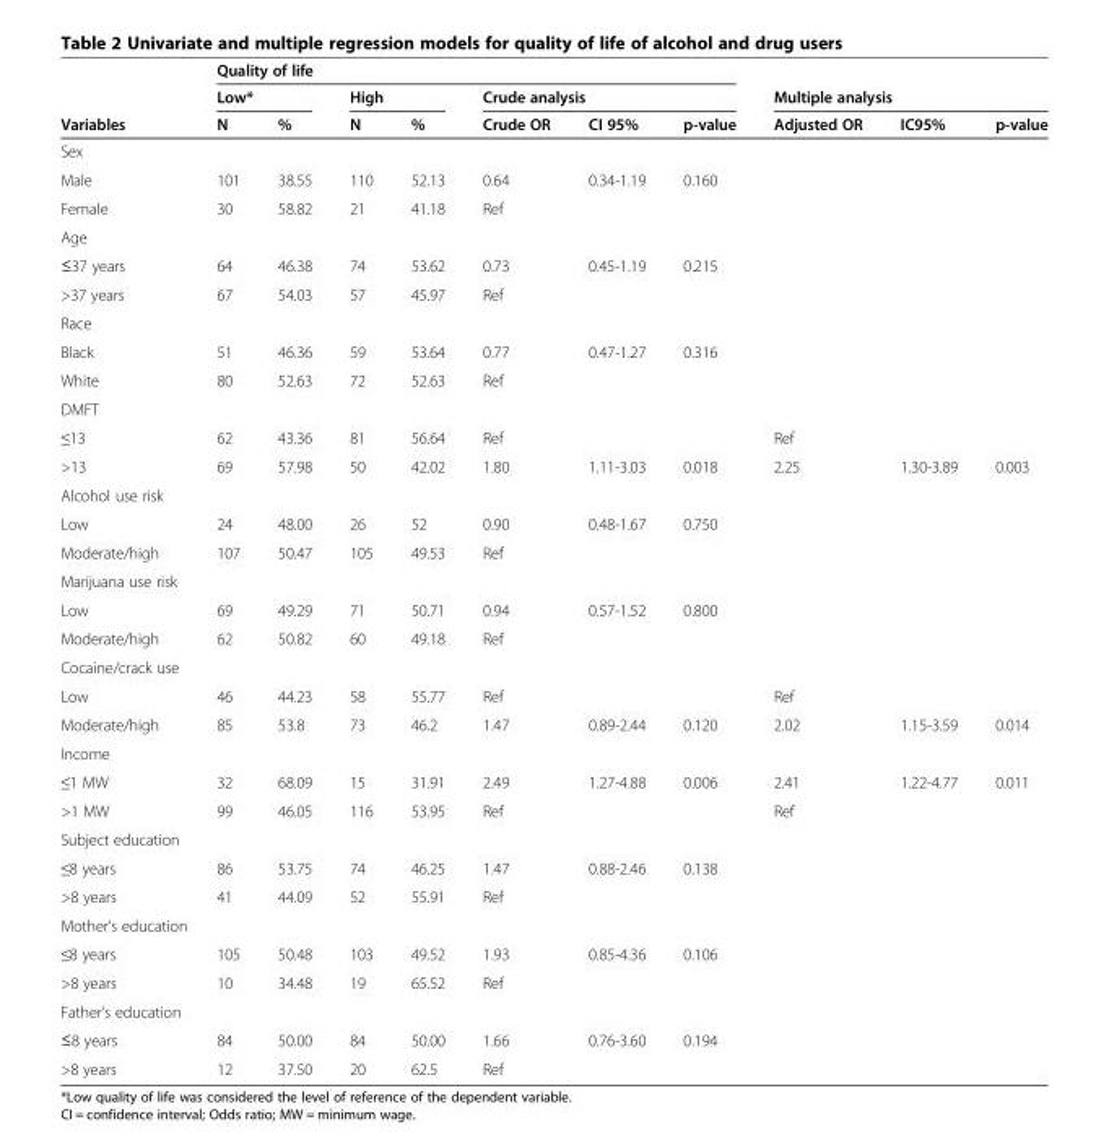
<table><thead><tr><td rowspan="3">Variables</td><td colspan="7">Quality of life</td><td></td><td></td><td></td></tr><tr><td colspan="2">Low*</td><td colspan="2">High</td><td colspan="3">Crude analysis</td><td colspan="3">Multiple analysis</td></tr><tr><td>N</td><td>%</td><td>N</td><td>%</td><td>Crude OR</td><td>CI 95%</td><td>p-value</td><td>Adjusted OR</td><td>IC95%</td><td>p-value</td></tr></thead><tbody><tr><td colspan="11">Sex</td></tr><tr><td>Male</td><td>101</td><td>38.55</td><td>110</td><td>52.13</td><td>0.64</td><td>0.34-1.19</td><td>0.160</td><td></td><td></td><td></td></tr><tr><td>Female</td><td>30</td><td>58.82</td><td>21</td><td>41.18</td><td>Ref</td><td></td><td></td><td></td><td></td><td></td></tr><tr><td colspan="11">Age</td></tr><tr><td>≤37 years</td><td>64</td><td>46.38</td><td>74</td><td>53.62</td><td>0.73</td><td>0.45-1.19</td><td>0.215</td><td></td><td></td><td></td></tr><tr><td>&gt;37 years</td><td>67</td><td>54.03</td><td>57</td><td>45.97</td><td>Ref</td><td></td><td></td><td></td><td></td><td></td></tr><tr><td colspan="11">Race</td></tr><tr><td>Black</td><td>51</td><td>46.36</td><td>59</td><td>53.64</td><td>0.77</td><td>0.47-1.27</td><td>0.316</td><td></td><td></td><td></td></tr><tr><td>White</td><td>80</td><td>52.63</td><td>72</td><td>52.63</td><td>Ref</td><td></td><td></td><td></td><td></td><td></td></tr><tr><td colspan="11">DMFT</td></tr><tr><td>≤13</td><td>62</td><td>43.36</td><td>81</td><td>56.64</td><td>Ref</td><td></td><td></td><td>Ref</td><td></td><td></td></tr><tr><td>&gt;13</td><td>69</td><td>57.98</td><td>50</td><td>42.02</td><td>1.80</td><td>1.11-3.03</td><td>0.018</td><td>2.25</td><td>1.30-3.89</td><td>0.003</td></tr><tr><td colspan="11">Alcohol use risk</td></tr><tr><td>Low</td><td>24</td><td>48.00</td><td>26</td><td>52</td><td>0.90</td><td>0.48-1.67</td><td>0.750</td><td></td><td></td><td></td></tr><tr><td>Moderate/high</td><td>107</td><td>50.47</td><td>105</td><td>49.53</td><td>Ref</td><td></td><td></td><td></td><td></td><td></td></tr><tr><td colspan="11">Marijuana use risk</td></tr><tr><td>Low</td><td>69</td><td>49.29</td><td>71</td><td>50.71</td><td>0.94</td><td>0.57-1.52</td><td>0.800</td><td></td><td></td><td></td></tr><tr><td>Moderate/high</td><td>62</td><td>50.82</td><td>60</td><td>49.18</td><td>Ref</td><td></td><td></td><td></td><td></td><td></td></tr><tr><td colspan="11">Cocaine/crack use</td></tr><tr><td>Low</td><td>46</td><td>44.23</td><td>58</td><td>55.77</td><td>Ref</td><td></td><td></td><td>Ref</td><td></td><td></td></tr><tr><td>Moderate/high</td><td>85</td><td>53.8</td><td>73</td><td>46.2</td><td>1.47</td><td>0.89-2.44</td><td>0.120</td><td>2.02</td><td>1.15-3.59</td><td>0.014</td></tr><tr><td colspan="11">Income</td></tr><tr><td>≤1 MW</td><td>32</td><td>68.09</td><td>15</td><td>31.91</td><td>2.49</td><td>1.27-4.88</td><td>0.006</td><td>2.41</td><td>1.22-4.77</td><td>0.011</td></tr><tr><td>&gt;1 MW</td><td>99</td><td>46.05</td><td>116</td><td>53.95</td><td>Ref</td><td></td><td></td><td>Ref</td><td></td><td></td></tr><tr><td colspan="11">Subject education</td></tr><tr><td>≤8 years</td><td>86</td><td>53.75</td><td>74</td><td>46.25</td><td>1.47</td><td>0.88-2.46</td><td>0.138</td><td></td><td></td><td></td></tr><tr><td>&gt;8 years</td><td>41</td><td>44.09</td><td>52</td><td>55.91</td><td>Ref</td><td></td><td></td><td></td><td></td><td></td></tr><tr><td colspan="11">Mother’s education</td></tr><tr><td>≤8 years</td><td>105</td><td>50.48</td><td>103</td><td>49.52</td><td>1.93</td><td>0.85-4.36</td><td>0.106</td><td></td><td></td><td></td></tr><tr><td>&gt;8 years</td><td>10</td><td>34.48</td><td>19</td><td>65.52</td><td>Ref</td><td></td><td></td><td></td><td></td><td></td></tr><tr><td colspan="11">Father’s education</td></tr><tr><td>≤8 years</td><td>84</td><td>50.00</td><td>84</td><td>50.00</td><td>1.66</td><td>0.76-3.60</td><td>0.194</td><td></td><td></td><td></td></tr><tr><td>&gt;8 years</td><td>12</td><td>37.50</td><td>20</td><td>62.5</td><td>Ref</td><td></td><td></td><td></td><td></td><td></td></tr></tbody></table>